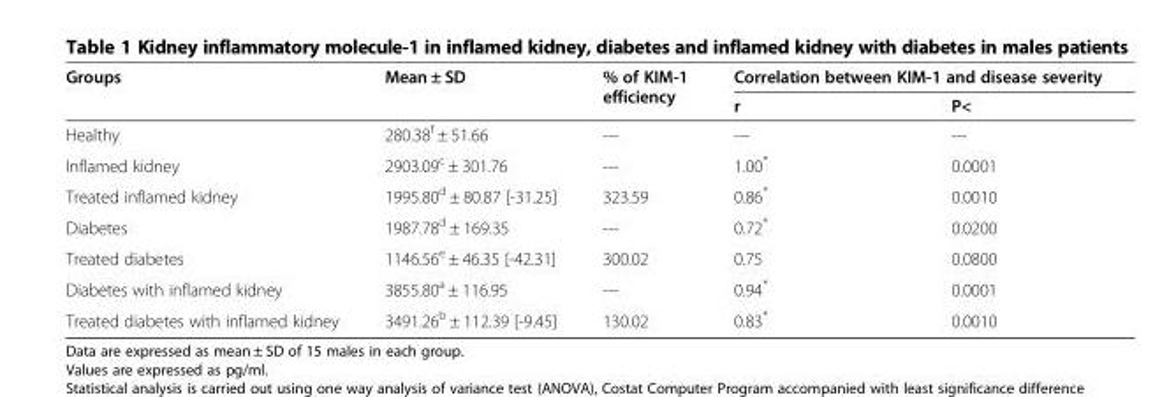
<table><thead><tr><td rowspan="2">Groups</td><td rowspan="2">Mean ± SD</td><td rowspan="2">% of KIM-1 efficiency</td><td colspan="2">Correlation between KIM-1 and disease severity</td></tr><tr><td>r</td><td>P&lt;</td></tr></thead><tbody><tr><td>Healthy</td><td>280.38<sup>f</sup> ± 51.66</td><td>---</td><td>---</td><td>---</td></tr><tr><td>Inflamed kidney</td><td>2903.09<sup>c</sup> ± 301.76</td><td>---</td><td>1.00*</td><td>0.0001</td></tr><tr><td>Treated inflamed kidney</td><td>1995.80<sup>d</sup> ± 80.87 [-31.25]</td><td>323.59</td><td>0.86*</td><td>0.0010</td></tr><tr><td>Diabetes</td><td>1987.78<sup>d</sup> ± 169.35</td><td>---</td><td>0.72*</td><td>0.0200</td></tr><tr><td>Treated diabetes</td><td>1146.56<sup>e</sup> ± 46.35 [-42.31]</td><td>300.02</td><td>0.75</td><td>0.0800</td></tr><tr><td>Diabetes with inflamed kidney</td><td>3855.80<sup>a</sup> ± 116.95</td><td>---</td><td>0.94*</td><td>0.0001</td></tr><tr><td>Treated diabetes with inflamed kidney</td><td>3491.26<sup>b</sup> ± 112.39 [-9.45]</td><td>130.02</td><td>0.83*</td><td>0.0010</td></tr></tbody></table>